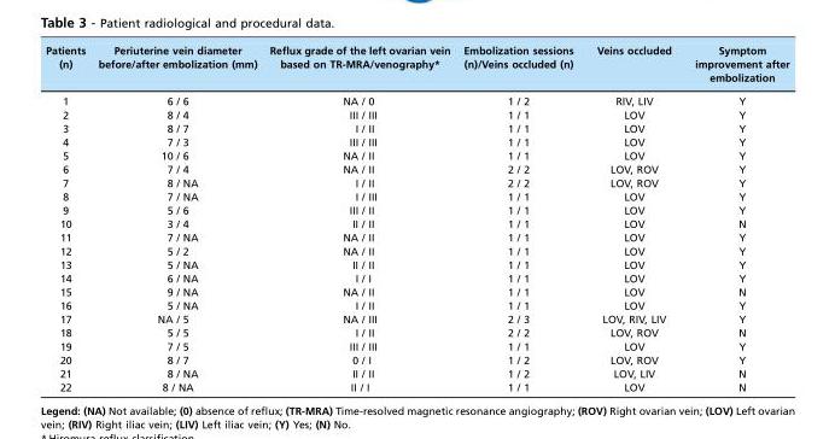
<table><thead><tr><td>Patients (n)</td><td>Periuterine vein diameter before/after embolization (mm)</td><td>Reflux grade of the left ovarian vein based on TR-MRA/venography*</td><td>Embolization sessions (n)/Veins occluded (n)</td><td>Veins occluded</td><td>Symptom improvement after embolization</td></tr></thead><tbody><tr><td>1</td><td>6 / 6</td><td>NA / 0</td><td>1 / 2</td><td>RIV, LIV</td><td>Y</td></tr><tr><td>2</td><td>8 / 4</td><td>III / III</td><td>1 / 1</td><td>LOV</td><td>Y</td></tr><tr><td>3</td><td>8 / 7</td><td>I / II</td><td>1 / 1</td><td>LOV</td><td>Y</td></tr><tr><td>4</td><td>7 / 3</td><td>III / III</td><td>1 / 1</td><td>LOV</td><td>Y</td></tr><tr><td>5</td><td>10 / 6</td><td>NA / II</td><td>1 / 1</td><td>LOV</td><td>Y</td></tr><tr><td>6</td><td>7 / 4</td><td>NA / II</td><td>2 / 2</td><td>LOV, ROV</td><td>Y</td></tr><tr><td>7</td><td>8 / NA</td><td>I / II</td><td>2 / 2</td><td>LOV, ROV</td><td>Y</td></tr><tr><td>8</td><td>7 / NA</td><td>I / III</td><td>1 / 1</td><td>LOV</td><td>Y</td></tr><tr><td>9</td><td>5 / 6</td><td>III / II</td><td>1 / 1</td><td>LOV</td><td>Y</td></tr><tr><td>10</td><td>3 / 4</td><td>II / II</td><td>1 / 1</td><td>LOV</td><td>N</td></tr><tr><td>11</td><td>7 / NA</td><td>NA / II</td><td>1 / 1</td><td>LOV</td><td>Y</td></tr><tr><td>12</td><td>5 / 2</td><td>NA / II</td><td>1 / 1</td><td>LOV</td><td>Y</td></tr><tr><td>13</td><td>5 / NA</td><td>II / II</td><td>1 / 1</td><td>LOV</td><td>Y</td></tr><tr><td>14</td><td>6 / NA</td><td>I / I</td><td>1 / 1</td><td>LOV</td><td>Y</td></tr><tr><td>15</td><td>9 / NA</td><td>NA / II</td><td>1 / 1</td><td>LOV</td><td>N</td></tr><tr><td>16</td><td>5 / NA</td><td>I / II</td><td>1 / 1</td><td>LOV</td><td>Y</td></tr><tr><td>17</td><td>NA / 5</td><td>NA / III</td><td>2 / 3</td><td>LOV, RIV, LIV</td><td>Y</td></tr><tr><td>18</td><td>5 / 5</td><td>I / II</td><td>2 / 2</td><td>LOV, ROV</td><td>N</td></tr><tr><td>19</td><td>7 / 5</td><td>III / III</td><td>1 / 1</td><td>LOV</td><td>Y</td></tr><tr><td>20</td><td>8 / 7</td><td>0 / I</td><td>1 / 2</td><td>LOV, ROV</td><td>Y</td></tr><tr><td>21</td><td>8 / NA</td><td>II / II</td><td>1 / 2</td><td>LOV, LIV</td><td>N</td></tr><tr><td>22</td><td>8 / NA</td><td>II / I</td><td>1 / 1</td><td>LOV</td><td>N</td></tr></tbody></table>